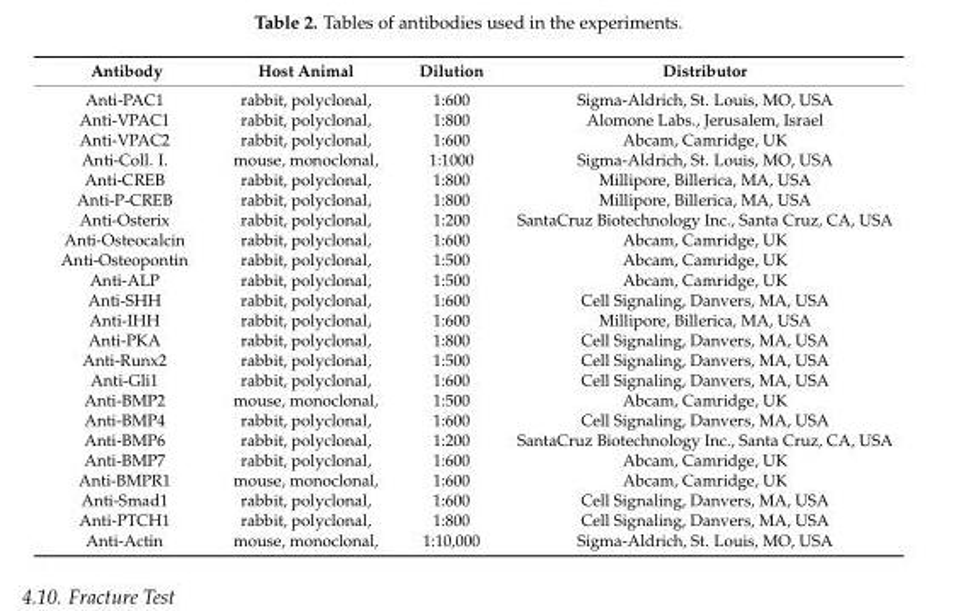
<table><thead><tr><td>Antibody</td><td>Host Animal</td><td>Dilution</td><td>Distributor</td></tr></thead><tbody><tr><td>Anti-PAC1</td><td>rabbit, polyclonal,</td><td>1:600</td><td>Sigma-Aldrich, St. Louis, MO, USA</td></tr><tr><td>Anti-VPAC1</td><td>rabbit, polyclonal,</td><td>1:800</td><td>Alomone Labs., Jerusalem, Israel</td></tr><tr><td>Anti-VPAC2</td><td>rabbit, polyclonal,</td><td>1:600</td><td>Abcam, Camridge, UK</td></tr><tr><td>Anti-Coll. I.</td><td>mouse, monoclonal,</td><td>1:1000</td><td>Sigma-Aldrich, St. Louis, MO, USA</td></tr><tr><td>Anti-CREB</td><td>rabbit, polyclonal,</td><td>1:800</td><td>Millipore, Billerica, MA, USA</td></tr><tr><td>Anti-P-CREB</td><td>rabbit, polyclonal,</td><td>1:800</td><td>Millipore, Billerica, MA, USA</td></tr><tr><td>Anti-Osterix</td><td>rabbit, polyclonal,</td><td>1:200</td><td>SantaCruz Biotechnology Inc., Santa Cruz, CA, USA</td></tr><tr><td>Anti-Osteocalcin</td><td>rabbit, polyclonal,</td><td>1:600</td><td>Abcam, Camridge, UK</td></tr><tr><td>Anti-Osteopontin</td><td>rabbit, polyclonal,</td><td>1:500</td><td>Abcam, Camridge, UK</td></tr><tr><td>Anti-ALP</td><td>rabbit, polyclonal,</td><td>1:500</td><td>Abcam, Camridge, UK</td></tr><tr><td>Anti-SHH</td><td>rabbit, polyclonal,</td><td>1:600</td><td>Cell Signaling, Danvers, MA, USA</td></tr><tr><td>Anti-IHH</td><td>rabbit, polyclonal,</td><td>1:600</td><td>Millipore, Billerica, MA, USA</td></tr><tr><td>Anti-PKA</td><td>rabbit, polyclonal,</td><td>1:800</td><td>Cell Signaling, Danvers, MA, USA</td></tr><tr><td>Anti-Runx2</td><td>rabbit, polyclonal,</td><td>1:500</td><td>Cell Signaling, Danvers, MA, USA</td></tr><tr><td>Anti-Gli1</td><td>rabbit, polyclonal,</td><td>1:600</td><td>Cell Signaling, Danvers, MA, USA</td></tr><tr><td>Anti-BMP2</td><td>mouse, monoclonal,</td><td>1:500</td><td>Abcam, Camridge, UK</td></tr><tr><td>Anti-BMP4</td><td>rabbit, polyclonal,</td><td>1:600</td><td>Cell Signaling, Danvers, MA, USA</td></tr><tr><td>Anti-BMP6</td><td>rabbit, polyclonal,</td><td>1:200</td><td>SantaCruz Biotechnology Inc., Santa Cruz, CA, USA</td></tr><tr><td>Anti-BMP7</td><td>rabbit, polyclonal,</td><td>1:600</td><td>Abcam, Camridge, UK</td></tr><tr><td>Anti-BMPR1</td><td>mouse, monoclonal,</td><td>1:600</td><td>Abcam, Camridge, UK</td></tr><tr><td>Anti-Smad1</td><td>rabbit, polyclonal,</td><td>1:600</td><td>Cell Signaling, Danvers, MA, USA</td></tr><tr><td>Anti-PTCH1</td><td>rabbit, polyclonal,</td><td>1:800</td><td>Cell Signaling, Danvers, MA, USA</td></tr><tr><td>Anti-Actin</td><td>mouse, monoclonal,</td><td>1:10,000</td><td>Sigma-Aldrich, St. Louis, MO, USA</td></tr></tbody></table>